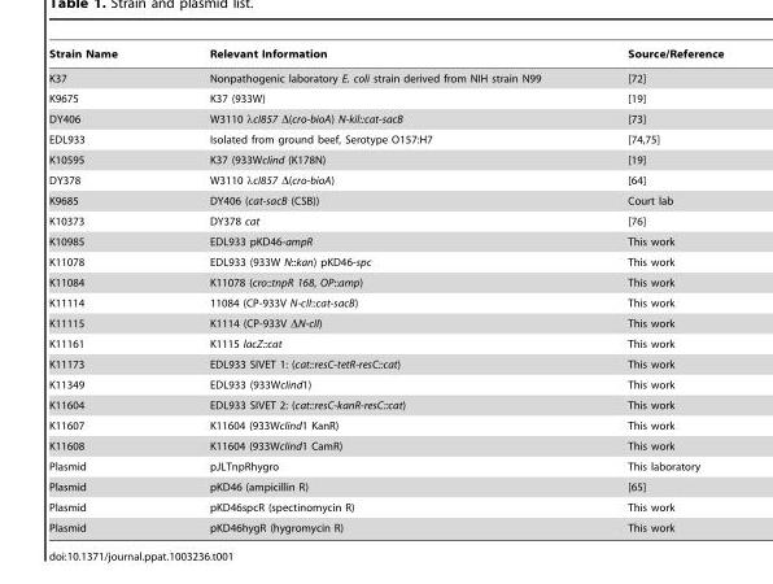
<table><thead><tr><td>Strain Name</td><td>Relevant Information</td><td>Source/Reference</td></tr></thead><tbody><tr><td>K37</td><td>Nonpathogenic laboratory E. coli strain derived from NIH strain N99</td><td>[72]</td></tr><tr><td>K9675</td><td>K37 (933W)</td><td>[19]</td></tr><tr><td>DY406</td><td>W3110 λcI857 Δ(cro-bioA) N-kil::cat-sacB</td><td>[73]</td></tr><tr><td>EDL933</td><td>Isolated from ground beef, Serotype O157:H7</td><td>[74,75]</td></tr><tr><td>K10595</td><td>K37 (933WcIind (K178N)</td><td>[19]</td></tr><tr><td>DY378</td><td>W3110 λcI857 Δ(cro-bioA)</td><td>[64]</td></tr><tr><td>K9685</td><td>DY406 (cat-sacB (CSB))</td><td>Court lab</td></tr><tr><td>K10373</td><td>DY378 cat</td><td>[76]</td></tr><tr><td>K10985</td><td>EDL933 pKD46-ampR</td><td>This work</td></tr><tr><td>K11078</td><td>EDL933 (933W N::kan) pKD46-spc</td><td>This work</td></tr><tr><td>K11084</td><td>K11078 (cro::tnpR 168, OP::amp)</td><td>This work</td></tr><tr><td>K11114</td><td>11084 (CP-933V N-cII::cat-sacB)</td><td>This work</td></tr><tr><td>K11115</td><td>K1114 (CP-933V ΔN-cII)</td><td>This work</td></tr><tr><td>K11161</td><td>K1115 lacZ::cat</td><td>This work</td></tr><tr><td>K11173</td><td>EDL933 SIVET 1: (cat::resC-tetR-resC::cat)</td><td>This work</td></tr><tr><td>K11349</td><td>EDL933 (933WcIind1)</td><td>This work</td></tr><tr><td>K11604</td><td>EDL933 SIVET 2: (cat::resC-kanR-resC::cat)</td><td>This work</td></tr><tr><td>K11607</td><td>K11604 (933WcIind1 KanR)</td><td>This work</td></tr><tr><td>K11608</td><td>K11604 (933WcIind1 CamR)</td><td>This work</td></tr><tr><td>Plasmid</td><td>pJLTnpRhygro</td><td>This laboratory</td></tr><tr><td>Plasmid</td><td>pKD46 (ampicillin R)</td><td>[65]</td></tr><tr><td>Plasmid</td><td>pKD46spcR (spectinomycin R)</td><td>This work</td></tr><tr><td>Plasmid</td><td>pKD46hygR (hygromycin R)</td><td>This work</td></tr></tbody></table>